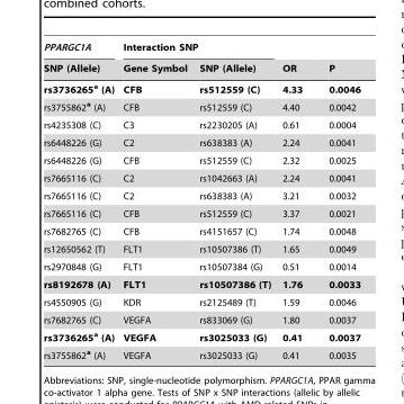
<table><thead><tr><td rowspan="2">PPARGC1A SNP (Allele)</td><td colspan="2">Interaction SNP</td><td rowspan="2">OR</td><td rowspan="2">P</td></tr><tr><td>Gene Symbol</td><td>SNP (Allele)</td></tr></thead><tbody><tr><td>rs3736265<sup>a</sup> (A)</td><td>CFB</td><td>rs512559 (C)</td><td>4.33</td><td>0.0046</td></tr><tr><td>rs3755862<sup>a</sup> (A)</td><td>CFB</td><td>rs512559 (C)</td><td>4.40</td><td>0.0042</td></tr><tr><td>rs4235308 (C)</td><td>C3</td><td>rs2230205 (A)</td><td>0.61</td><td>0.0004</td></tr><tr><td>rs6448226 (G)</td><td>C2</td><td>rs638383 (A)</td><td>2.24</td><td>0.0041</td></tr><tr><td>rs6448226 (G)</td><td>CFB</td><td>rs512559 (C)</td><td>2.32</td><td>0.0025</td></tr><tr><td>rs7665116 (C)</td><td>C2</td><td>rs1042663 (A)</td><td>2.24</td><td>0.0041</td></tr><tr><td>rs7665116 (C)</td><td>C2</td><td>rs638383 (A)</td><td>3.21</td><td>0.0032</td></tr><tr><td>rs7665116 (C)</td><td>CFB</td><td>rs512559 (C)</td><td>3.37</td><td>0.0021</td></tr><tr><td>rs7682765 (C)</td><td>CFB</td><td>rs4151657 (C)</td><td>1.74</td><td>0.0048</td></tr><tr><td>rs12650562 (T)</td><td>FLT1</td><td>rs10507386 (T)</td><td>1.65</td><td>0.0049</td></tr><tr><td>rs2970848 (G)</td><td>FLT1</td><td>rs10507384 (G)</td><td>0.51</td><td>0.0014</td></tr><tr><td>rs8192678 (A)</td><td>FLT1</td><td>rs10507386 (T)</td><td>1.76</td><td>0.0033</td></tr><tr><td>rs4550905 (G)</td><td>KDR</td><td>rs2125489 (T)</td><td>1.59</td><td>0.0046</td></tr><tr><td>rs7682765 (C)</td><td>VEGFA</td><td>rs833069 (G)</td><td>1.80</td><td>0.0037</td></tr><tr><td>rs3736265<sup>a</sup> (A)</td><td>VEGFA</td><td>rs3025033 (G)</td><td>0.41</td><td>0.0037</td></tr><tr><td>rs3755862<sup>a</sup> (A)</td><td>VEGFA</td><td>rs3025033 (G)</td><td>0.41</td><td>0.0035</td></tr></tbody></table>